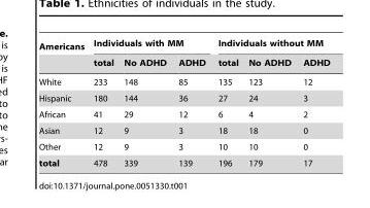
<table><thead><tr><td rowspan="2">Americans</td><td colspan="3">Individuals with MM</td><td colspan="3">Individuals without MM</td></tr><tr><td>total</td><td>No ADHD</td><td>ADHD</td><td>total</td><td>No ADHD</td><td>ADHD</td></tr></thead><tbody><tr><td>White</td><td>233</td><td>148</td><td>85</td><td>135</td><td>123</td><td>12</td></tr><tr><td>Hispanic</td><td>180</td><td>144</td><td>36</td><td>27</td><td>24</td><td>3</td></tr><tr><td>African</td><td>41</td><td>29</td><td>12</td><td>6</td><td>4</td><td>2</td></tr><tr><td>Asian</td><td>12</td><td>9</td><td>3</td><td>18</td><td>18</td><td>0</td></tr><tr><td>Other</td><td>12</td><td>9</td><td>3</td><td>10</td><td>10</td><td>0</td></tr><tr><td>total</td><td>478</td><td>339</td><td>139</td><td>196</td><td>179</td><td>17</td></tr></tbody></table>